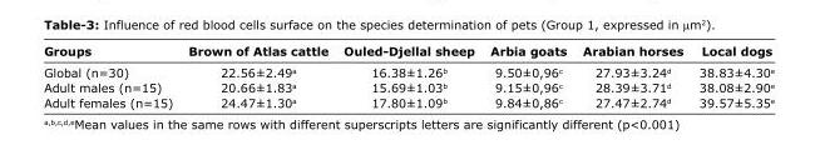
<table><thead><tr><td>Groups</td><td>Brown of Atlas cattle</td><td>Ouled-Djellal sheep</td><td>Arbia goats</td><td>Arabian horses</td><td>Local dogs</td></tr></thead><tbody><tr><td>Global (n=30)</td><td>22.56±2.49<sup>a</sup></td><td>16.38±1.26<sup>b</sup></td><td>9.50±0,96<sup>c</sup></td><td>27.93±3.24<sup>d</sup></td><td>38.83±4.30<sup>e</sup></td></tr><tr><td>Adult males (n=15)</td><td>20.66±1.83<sup>a</sup></td><td>15.69±1.03<sup>b</sup></td><td>9.15±0,96<sup>c</sup></td><td>28.39±3.71<sup>d</sup></td><td>38.08±2.90<sup>e</sup></td></tr><tr><td>Adult females (n=15)</td><td>24.47±1.30<sup>a</sup></td><td>17.80±1.09<sup>b</sup></td><td>9.84±0,86<sup>c</sup></td><td>27.47±2.74<sup>d</sup></td><td>39.57±5.35<sup>e</sup></td></tr></tbody></table>